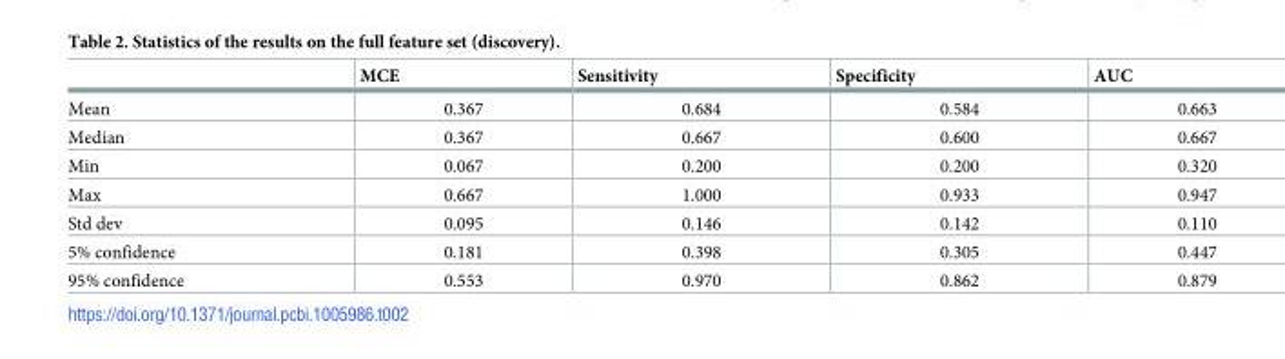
<table><thead><tr><td></td><td>MCE</td><td>Sensitivity</td><td>Specificity</td><td>AUC</td></tr></thead><tbody><tr><td>Mean</td><td>0.367</td><td>0.684</td><td>0.584</td><td>0.663</td></tr><tr><td>Median</td><td>0.367</td><td>0.667</td><td>0.600</td><td>0.667</td></tr><tr><td>Min</td><td>0.067</td><td>0.200</td><td>0.200</td><td>0.320</td></tr><tr><td>Max</td><td>0.667</td><td>1.000</td><td>0.933</td><td>0.947</td></tr><tr><td>Std dev</td><td>0.095</td><td>0.146</td><td>0.142</td><td>0.110</td></tr><tr><td>5% confidence</td><td>0.181</td><td>0.398</td><td>0.305</td><td>0.447</td></tr><tr><td>95% confidence</td><td>0.553</td><td>0.970</td><td>0.862</td><td>0.879</td></tr></tbody></table>